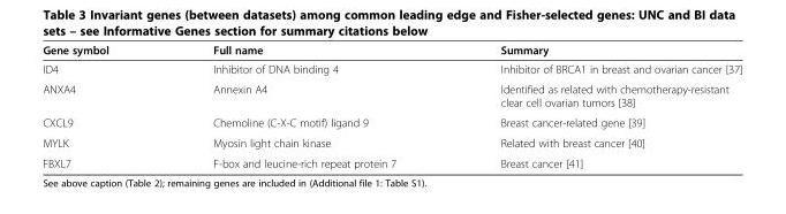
<table><thead><tr><td>Gene symbol</td><td>Full name</td><td>Summary</td></tr></thead><tbody><tr><td>ID4</td><td>Inhibitor of DNA binding 4</td><td>Inhibitor of BRCA1 in breast and ovarian cancer [37]</td></tr><tr><td>ANXA4</td><td>Annexin A4</td><td>Identified as related with chemotherapy-resistant clear cell ovarian tumors [38]</td></tr><tr><td>CXCL9</td><td>Chemoline (C-X-C motif) ligand 9</td><td>Breast cancer-related gene [39]</td></tr><tr><td>MYLK</td><td>Myosin light chain kinase</td><td>Related with breast cancer [40]</td></tr><tr><td>FBXL7</td><td>F-box and leucine-rich repeat protein 7</td><td>Breast cancer [41]</td></tr></tbody></table>